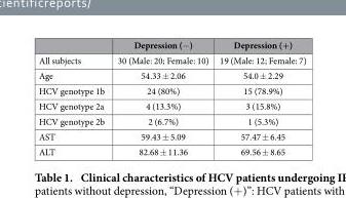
<table><thead><tr><td></td><td>Depression (− )</td><td>Depression (+)</td></tr></thead><tbody><tr><td>All subjects</td><td>30 (Male: 20; Female: 10)</td><td>19 (Male: 12; Female: 7)</td></tr><tr><td>Age</td><td>54.33 ± 2.06</td><td>54.0 ± 2.29</td></tr><tr><td>HCV genotype 1b</td><td>24 (80%)</td><td>15 (78.9%)</td></tr><tr><td>HCV genotype 2a</td><td>4 (13.3%)</td><td>3 (15.8%)</td></tr><tr><td>HCV genotype 2b</td><td>2 (6.7%)</td><td>1 (5.3%)</td></tr><tr><td>AST</td><td>59.43 ± 5.09</td><td>57.47 ± 6.45</td></tr><tr><td>ALT</td><td>82.68 ± 11.36</td><td>69.56 ± 8.65</td></tr></tbody></table>